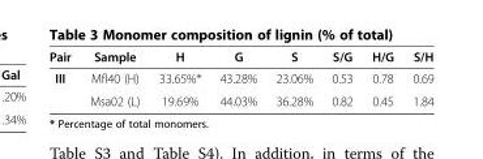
<table><thead><tr><td>Pair</td><td>Sample</td><td>H</td><td>G</td><td>S</td><td>S/G</td><td>H/G</td><td>S/H</td></tr></thead><tbody><tr><td rowspan="2">III</td><td>Mfl40 (H)</td><td>33.65%*</td><td>43.28%</td><td>23.06%</td><td>0.53</td><td>0.78</td><td>0.69</td></tr><tr><td>Msa02 (L)</td><td>19.69%</td><td>44.03%</td><td>36.28%</td><td>0.82</td><td>0.45</td><td>1.84</td></tr></tbody></table>